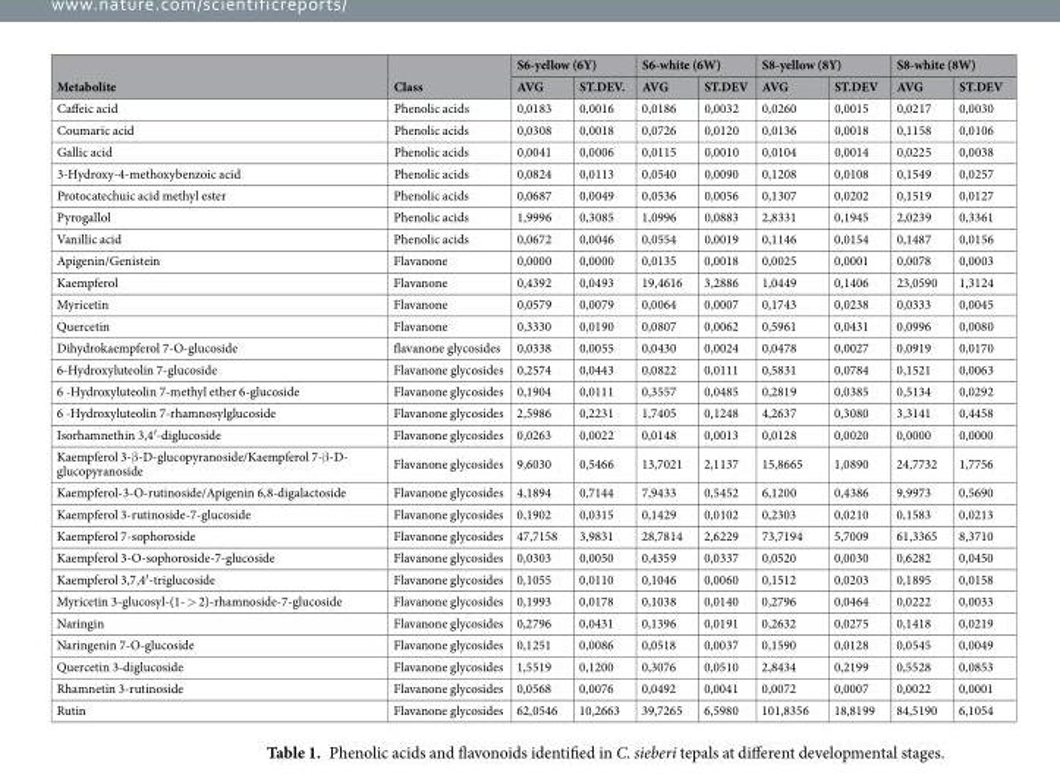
<table><thead><tr><td rowspan="2">Metabolite</td><td rowspan="2">Class</td><td colspan="2">S6-yellow (6Y)</td><td colspan="2">S6-white (6W)</td><td colspan="2">S8-yellow (8Y)</td><td colspan="2">S8-white (8W)</td></tr><tr><td>AVG</td><td>ST.DEV.</td><td>AVG</td><td>ST.DEV</td><td>AVG</td><td>ST.DEV</td><td>AVG</td><td>ST.DEV</td></tr></thead><tbody><tr><td>Caffeic acid</td><td>Phenolic acids</td><td>0,0183</td><td>0,0016</td><td>0,0186</td><td>0,0032</td><td>0,0260</td><td>0,0015</td><td>0,0217</td><td>0,0030</td></tr><tr><td>Coumaric acid</td><td>Phenolic acids</td><td>0,0308</td><td>0,0018</td><td>0,0726</td><td>0,0120</td><td>0,0136</td><td>0,0018</td><td>0,1158</td><td>0,0106</td></tr><tr><td>Gallic acid</td><td>Phenolic acids</td><td>0,0041</td><td>0,0006</td><td>0,0115</td><td>0,0010</td><td>0,0104</td><td>0,0014</td><td>0,0225</td><td>0,0038</td></tr><tr><td>3-Hydroxy-4-methoxybenzoic acid</td><td>Phenolic acids</td><td>0,0824</td><td>0,0113</td><td>0,0540</td><td>0,0090</td><td>0,1208</td><td>0,0108</td><td>0,1549</td><td>0,0257</td></tr><tr><td>Protocatechuic acid methyl ester</td><td>Phenolic acids</td><td>0,0687</td><td>0,0049</td><td>0,0536</td><td>0,0056</td><td>0,1307</td><td>0,0202</td><td>0,1519</td><td>0,0127</td></tr><tr><td>Pyrogallol</td><td>Phenolic acids</td><td>1,9996</td><td>0,3085</td><td>1,0996</td><td>0,0883</td><td>2,8331</td><td>0,1945</td><td>2,0239</td><td>0,3361</td></tr><tr><td>Vanillic acid</td><td>Phenolic acids</td><td>0,0672</td><td>0,0046</td><td>0,0554</td><td>0,0019</td><td>0,1146</td><td>0,0154</td><td>0,1487</td><td>0,0156</td></tr><tr><td>Apigenin/Genistein</td><td>Flavanone</td><td>0,0000</td><td>0,0000</td><td>0,0135</td><td>0,0018</td><td>0,0025</td><td>0,0001</td><td>0,0078</td><td>0,0003</td></tr><tr><td>Kaempferol</td><td>Flavanone</td><td>0,4392</td><td>0,0493</td><td>19,4616</td><td>3,2886</td><td>1,0449</td><td>0,1406</td><td>23,0590</td><td>1,3124</td></tr><tr><td>Myricetin</td><td>Flavanone</td><td>0,0579</td><td>0,0079</td><td>0,0064</td><td>0,0007</td><td>0,1743</td><td>0,0238</td><td>0,0333</td><td>0,0045</td></tr><tr><td>Quercetin</td><td>Flavanone</td><td>0,3330</td><td>0,0190</td><td>0,0807</td><td>0,0062</td><td>0,5961</td><td>0,0431</td><td>0,0996</td><td>0,0080</td></tr><tr><td>Dihydrokaempferol 7-O-glucoside</td><td>flavanone glycosides</td><td>0,0338</td><td>0,0055</td><td>0,0430</td><td>0,0024</td><td>0,0478</td><td>0,0027</td><td>0,0919</td><td>0,0170</td></tr><tr><td>6-Hydroxyluteolin 7-glucoside</td><td>Flavanone glycosides</td><td>0,2574</td><td>0,0443</td><td>0,0822</td><td>0,0111</td><td>0,5831</td><td>0,0784</td><td>0,1521</td><td>0,0063</td></tr><tr><td>6 -Hydroxyluteolin 7-methyl ether 6-glucoside</td><td>Flavanone glycosides</td><td>0,1904</td><td>0,0111</td><td>0,3557</td><td>0,0485</td><td>0,2819</td><td>0,0385</td><td>0,5134</td><td>0,0292</td></tr><tr><td>6 -Hydroxyluteolin 7-rhamnosylglucoside</td><td>Flavanone glycosides</td><td>2,5986</td><td>0,2231</td><td>1,7405</td><td>0,1248</td><td>4,2637</td><td>0,3080</td><td>3,3141</td><td>0,4458</td></tr><tr><td>Isorhamnethin 3,4′-diglucoside</td><td>Flavanone glycosides</td><td>0,0263</td><td>0,0022</td><td>0,0148</td><td>0,0013</td><td>0,0128</td><td>0,0020</td><td>0,0000</td><td>0,0000</td></tr><tr><td>Kaempferol 3-β-D-glucopyranoside/Kaempferol 7-β-D- glucopyranoside</td><td>Flavanone glycosides</td><td>9,6030</td><td>0,5466</td><td>13,7021</td><td>2,1137</td><td>15,8665</td><td>1,0890</td><td>24,7732</td><td>1,7756</td></tr><tr><td>Kaempferol‐3‐O‐rutinoside/Apigenin 6,8-digalactoside</td><td>Flavanone glycosides</td><td>4,1894</td><td>0,7144</td><td>7,9433</td><td>0,5452</td><td>6,1200</td><td>0,4386</td><td>9,9973</td><td>0,5690</td></tr><tr><td>Kaempferol 3-rutinoside-7-glucoside</td><td>Flavanone glycosides</td><td>0,1902</td><td>0,0315</td><td>0,1429</td><td>0,0102</td><td>0,2303</td><td>0,0210</td><td>0,1583</td><td>0,0213</td></tr><tr><td>Kaempferol 7-sophoroside</td><td>Flavanone glycosides</td><td>47,7158</td><td>3,9831</td><td>28,7814</td><td>2,6229</td><td>73,7194</td><td>5,7009</td><td>61,3365</td><td>8,3710</td></tr><tr><td>Kaempferol 3-O-sophoroside-7-glucoside</td><td>Flavanone glycosides</td><td>0,0303</td><td>0,0050</td><td>0,4359</td><td>0,0337</td><td>0,0520</td><td>0,0030</td><td>0,6282</td><td>0,0450</td></tr><tr><td>Kaempferol 3,7,4′-triglucoside</td><td>Flavanone glycosides</td><td>0,1055</td><td>0,0110</td><td>0,1046</td><td>0,0060</td><td>0,1512</td><td>0,0203</td><td>0,1895</td><td>0,0158</td></tr><tr><td>Myricetin 3-glucosyl-(1- &gt; 2)-rhamnoside-7-glucoside</td><td>Flavanone glycosides</td><td>0,1993</td><td>0,0178</td><td>0,1038</td><td>0,0140</td><td>0,2796</td><td>0,0464</td><td>0,0222</td><td>0,0033</td></tr><tr><td>Naringin</td><td>Flavanone glycosides</td><td>0,2796</td><td>0,0431</td><td>0,1396</td><td>0,0191</td><td>0,2632</td><td>0,0275</td><td>0,1418</td><td>0,0219</td></tr><tr><td>Naringenin 7-O-glucoside</td><td>Flavanone glycosides</td><td>0,1251</td><td>0,0086</td><td>0,0518</td><td>0,0037</td><td>0,1590</td><td>0,0128</td><td>0,0545</td><td>0,0049</td></tr><tr><td>Quercetin 3-diglucoside</td><td>Flavanone glycosides</td><td>1,5519</td><td>0,1200</td><td>0,3076</td><td>0,0510</td><td>2,8434</td><td>0,2199</td><td>0,5528</td><td>0,0853</td></tr><tr><td>Rhamnetin 3-rutinoside</td><td>Flavanone glycosides</td><td>0,0568</td><td>0,0076</td><td>0,0492</td><td>0,0041</td><td>0,0072</td><td>0,0007</td><td>0,0022</td><td>0,0001</td></tr><tr><td>Rutin</td><td>Flavanone glycosides</td><td>62,0546</td><td>10,2663</td><td>39,7265</td><td>6,5980</td><td>101,8356</td><td>18,8199</td><td>84,5190</td><td>6,1054</td></tr></tbody></table>